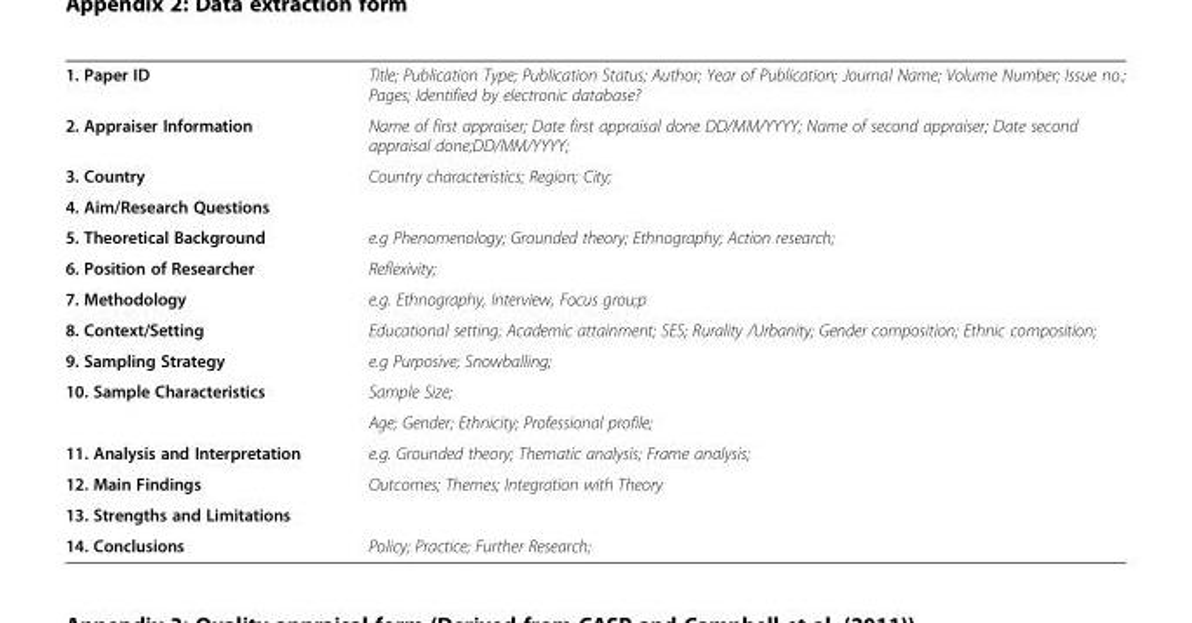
<table><tbody><tr><td>1. Paper ID</td><td>Title; Publication Type; Publication Status; Author; Year of Publication; Journal Name; Volume Number; Issue no.; Pages; Identified by electronic database?</td></tr><tr><td>2. Appraiser Information</td><td>Name of first appraiser; Date first appraisal done DD/MM/YYYY; Name of second appraiser; Date second appraisal done;DD/MM/YYYY;</td></tr><tr><td>3. Country</td><td>Country characteristics; Region; City;</td></tr><tr><td colspan="2">4. Aim/Research Questions</td></tr><tr><td>5. Theoretical Background</td><td>e.g Phenomenology; Grounded theory; Ethnography; Action research;</td></tr><tr><td>6. Position of Researcher</td><td>Reflexivity;</td></tr><tr><td>7. Methodology</td><td>e.g. Ethnography, Interview, Focus grou;p</td></tr><tr><td>8. Context/Setting</td><td>Educational setting; Academic attainment; SES; Rurality /Urbanity; Gender composition; Ethnic composition;</td></tr><tr><td>9. Sampling Strategy</td><td>e.g Purposive; Snowballing;</td></tr><tr><td rowspan="2">10. Sample Characteristics</td><td>Sample Size;</td></tr><tr><td>Age; Gender; Ethnicity; Professional profile;</td></tr><tr><td>11. Analysis and Interpretation</td><td>e.g. Grounded theory; Thematic analysis; Frame analysis;</td></tr><tr><td>12. Main Findings</td><td>Outcomes; Themes; Integration with Theory</td></tr><tr><td colspan="2">13. Strengths and Limitations</td></tr><tr><td>14. Conclusions</td><td>Policy; Practice; Further Research;</td></tr></tbody></table>